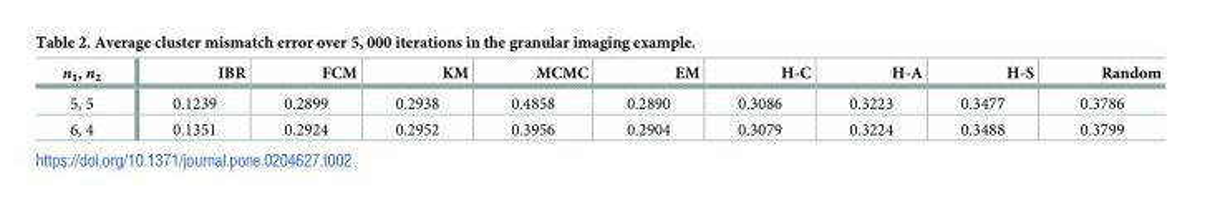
<table><thead><tr><td>n<sub>1</sub>, n<sub>2</sub></td><td>IBR</td><td>FCM</td><td>KM</td><td>MCMC</td><td>EM</td><td>H-C</td><td>H-A</td><td>H-S</td><td>Random</td></tr></thead><tbody><tr><td>5, 5</td><td>0.1239</td><td>0.2899</td><td>0.2938</td><td>0.4858</td><td>0.2890</td><td>0.3086</td><td>0.3223</td><td>0.3477</td><td>0.3786</td></tr><tr><td>6, 4</td><td>0.1351</td><td>0.2924</td><td>0.2952</td><td>0.3956</td><td>0.2904</td><td>0.3079</td><td>0.3224</td><td>0.3488</td><td>0.3799</td></tr></tbody></table>